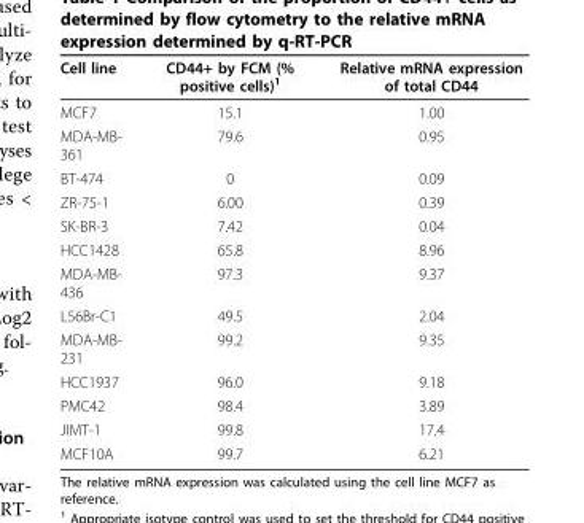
<table><thead><tr><td>Cell line</td><td>CD44+ by FCM (% positive cells)<sup>1</sup></td><td>Relative mRNA expression of total CD44</td></tr></thead><tbody><tr><td>MCF7</td><td>15.1</td><td>1.00</td></tr><tr><td>MDA-MB- 361</td><td>79.6</td><td>0.95</td></tr><tr><td>BT-474</td><td>0</td><td>0.09</td></tr><tr><td>ZR-75-1</td><td>6.00</td><td>0.39</td></tr><tr><td>SK-BR-3</td><td>7.42</td><td>0.04</td></tr><tr><td>HCC1428</td><td>65.8</td><td>8.96</td></tr><tr><td>MDA-MB- 436</td><td>97.3</td><td>9.37</td></tr><tr><td>L56Br-C1</td><td>49.5</td><td>2.04</td></tr><tr><td>MDA-MB- 231</td><td>99.2</td><td>9.35</td></tr><tr><td>HCC1937</td><td>96.0</td><td>9.18</td></tr><tr><td>PMC42</td><td>98.4</td><td>3.89</td></tr><tr><td>JIMT-1</td><td>99.8</td><td>17.4</td></tr><tr><td>MCF10A</td><td>99.7</td><td>6.21</td></tr></tbody></table>